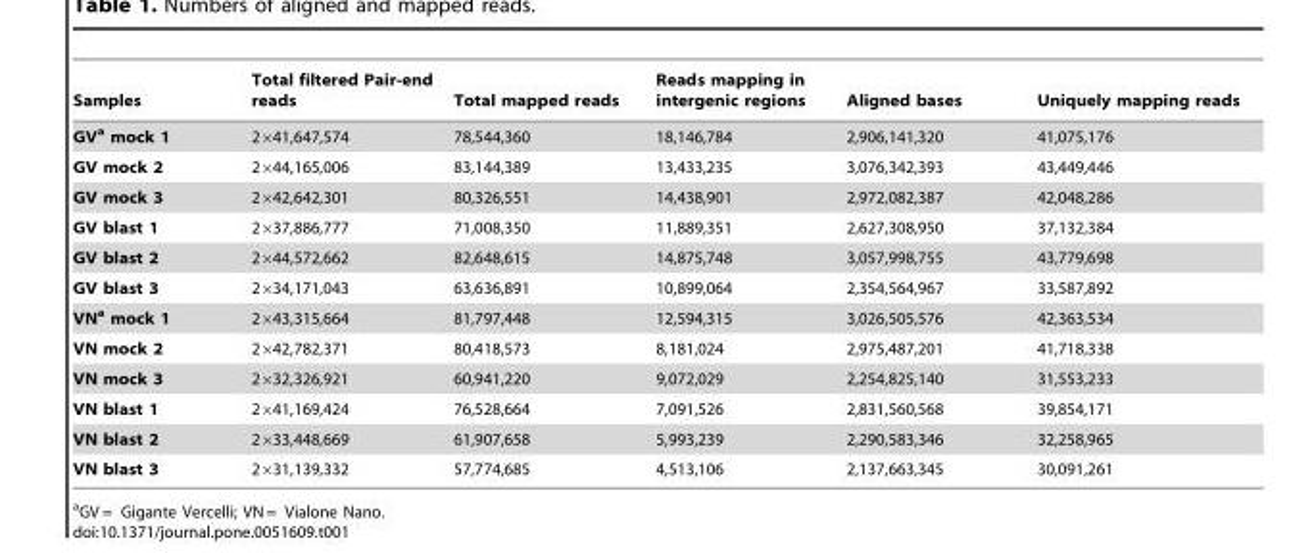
<table><thead><tr><td>Samples</td><td>Total filtered Pair-end reads</td><td>Total mapped reads</td><td>Reads mapping in intergenic regions</td><td>Aligned bases</td><td>Uniquely mapping reads</td></tr></thead><tbody><tr><td>GVa mock 1</td><td>2×41,647,574</td><td>78,544,360</td><td>18,146,784</td><td>2,906,141,320</td><td>41,075,176</td></tr><tr><td>GV mock 2</td><td>2×44,165,006</td><td>83,144,389</td><td>13,433,235</td><td>3,076,342,393</td><td>43,449,446</td></tr><tr><td>GV mock 3</td><td>2×42,642,301</td><td>80,326,551</td><td>14,438,901</td><td>2,972,082,387</td><td>42,048,286</td></tr><tr><td>GV blast 1</td><td>2×37,886,777</td><td>71,008,350</td><td>11,889,351</td><td>2,627,308,950</td><td>37,132,384</td></tr><tr><td>GV blast 2</td><td>2×44,572,662</td><td>82,648,615</td><td>14,875,748</td><td>3,057,998,755</td><td>43,779,698</td></tr><tr><td>GV blast 3</td><td>2×34,171,043</td><td>63,636,891</td><td>10,899,064</td><td>2,354,564,967</td><td>33,587,892</td></tr><tr><td>VNa mock 1</td><td>2×43,315,664</td><td>81,797,448</td><td>12,594,315</td><td>3,026,505,576</td><td>42,363,534</td></tr><tr><td>VN mock 2</td><td>2×42,782,371</td><td>80,418,573</td><td>8,181,024</td><td>2,975,487,201</td><td>41,718,338</td></tr><tr><td>VN mock 3</td><td>2×32,326,921</td><td>60,941,220</td><td>9,072,029</td><td>2,254,825,140</td><td>31,553,233</td></tr><tr><td>VN blast 1</td><td>2×41,169,424</td><td>76,528,664</td><td>7,091,526</td><td>2,831,560,568</td><td>39,854,171</td></tr><tr><td>VN blast 2</td><td>2×33,448,669</td><td>61,907,658</td><td>5,993,239</td><td>2,290,583,346</td><td>32,258,965</td></tr><tr><td>VN blast 3</td><td>2×31,139,332</td><td>57,774,685</td><td>4,513,106</td><td>2,137,663,345</td><td>30,091,261</td></tr></tbody></table>